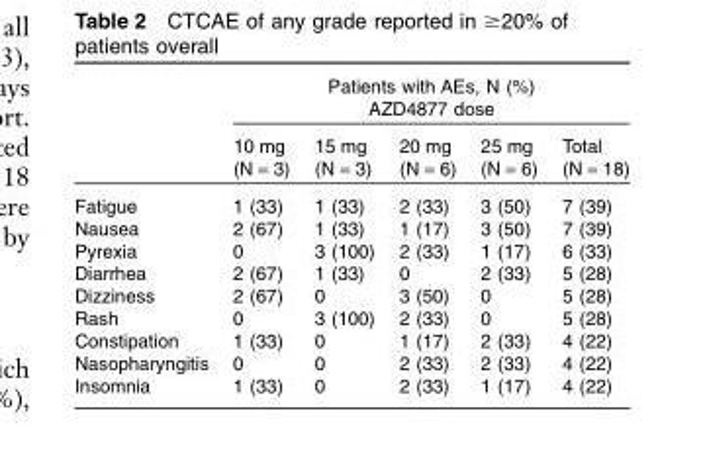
<table><thead><tr><td rowspan="3"></td><td rowspan="2" colspan="5">Patients with AEs, N (%) AZD4877 dose</td></tr><tr></tr><tr><td>10 mg (N = 3)</td><td>15 mg (N = 3)</td><td>20 mg (N = 6)</td><td>25 mg (N = 6)</td><td>Total (N = 18)</td></tr></thead><tbody><tr><td>Fatigue</td><td>1 (33)</td><td>1 (33)</td><td>2 (33)</td><td>3 (50)</td><td>7 (39)</td></tr><tr><td>Nausea</td><td>2 (67)</td><td>1 (33)</td><td>1 (17)</td><td>3 (50)</td><td>7 (39)</td></tr><tr><td>Pyrexia</td><td>0</td><td>3 (100)</td><td>2 (33)</td><td>1 (17)</td><td>6 (33)</td></tr><tr><td>Diarrhea</td><td>2 (67)</td><td>1 (33)</td><td>0</td><td>2 (33)</td><td>5 (28)</td></tr><tr><td>Dizziness</td><td>2 (67)</td><td>0</td><td>3 (50)</td><td>0</td><td>5 (28)</td></tr><tr><td>Rash</td><td>0</td><td>3 (100)</td><td>2 (33)</td><td>0</td><td>5 (28)</td></tr><tr><td>Constipation</td><td>1 (33)</td><td>0</td><td>1 (17)</td><td>2 (33)</td><td>4 (22)</td></tr><tr><td>Nasopharyngitis</td><td>0</td><td>0</td><td>2 (33)</td><td>2 (33)</td><td>4 (22)</td></tr><tr><td>Insomnia</td><td>1 (33)</td><td>0</td><td>2 (33)</td><td>1 (17)</td><td>4 (22)</td></tr></tbody></table>